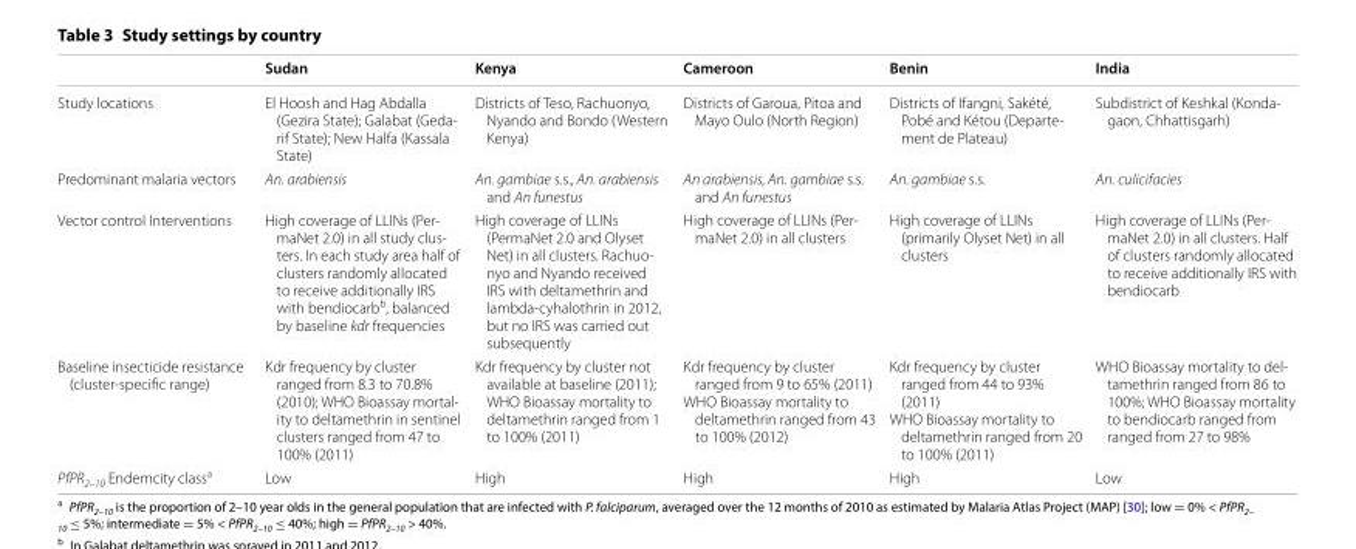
<table><thead><tr><td></td><td>Sudan</td><td>Kenya</td><td>Cameroon</td><td>Benin</td><td>India</td></tr></thead><tbody><tr><td>Study locations</td><td>El Hoosh and Hag Abdalla (Gezira State); Galabat (Geda‑ rif State); New Halfa (Kassala State)</td><td>Districts of Teso, Rachuonyo, Nyando and Bondo (Western Kenya)</td><td>Districts of Garoua, Pitoa and Mayo Oulo (North Region)</td><td>Districts of Ifangni, Sakété, Pobé and Kétou (Departe‑ ment de Plateau)</td><td>Subdistrict of Keshkal (Konda‑ gaon, Chhattisgarh)</td></tr><tr><td>Predominant malaria vectors</td><td>An. arabiensis</td><td>An. gambiae s.s., An. arabiensis and An funestus</td><td>An arabiensis, An. gambiae s.s. and An funestus</td><td>An. gambiae s.s.</td><td>An. culicifacies</td></tr><tr><td>Vector control Interventions</td><td>High coverage of LLINs (Per‑ maNet 2.0) in all study clus‑ ters. In each study area half of clusters randomly allocated to receive additionally IRS with bendiocarbb, balanced by baseline kdr frequencies</td><td>High coverage of LLINs (PermaNet 2.0 and Olyset Net) in all clusters. Rachuo‑ nyo and Nyando received IRS with deltamethrin and lambda‑cyhalothrin in 2012, but no IRS was carried out subsequently</td><td>High coverage of LLINs (Per‑ maNet 2.0) in all clusters</td><td>High coverage of LLINs (primarily Olyset Net) in all clusters</td><td>High coverage of LLINs (Per‑ maNet 2.0) in all clusters. Half of clusters randomly allocated to receive additionally IRS with bendiocarb</td></tr><tr><td>Baseline insecticide resistance (cluster‑specific range)</td><td>Kdr frequency by cluster ranged from 8.3 to 70.8% (2010); WHO Bioassay mortal‑ ity to deltamethrin in sentinel clusters ranged from 47 to 100% (2011)</td><td>Kdr frequency by cluster not available at baseline (2011); WHO Bioassay mortality to deltamethrin ranged from 1 to 100% (2011)</td><td>Kdr frequency by cluster ranged from 9 to 65% (2011) WHO Bioassay mortality to deltamethrin ranged from 43 to 100% (2012)</td><td>Kdr frequency by cluster ranged from 44 to 93% (2011) WHO Bioassay mortality to deltamethrin ranged from 20 to 100% (2011)</td><td>WHO Bioassay mortality to del‑ tamethrin ranged from 86 to 100%; WHO Bioassay mortality to bendiocarb ranged from ranged from 27 to 98%</td></tr><tr><td>PfPR<sub>2–10</sub> Endemcity class<sup>a</sup></td><td>Low</td><td>High</td><td>High</td><td>High</td><td>Low</td></tr></tbody></table>